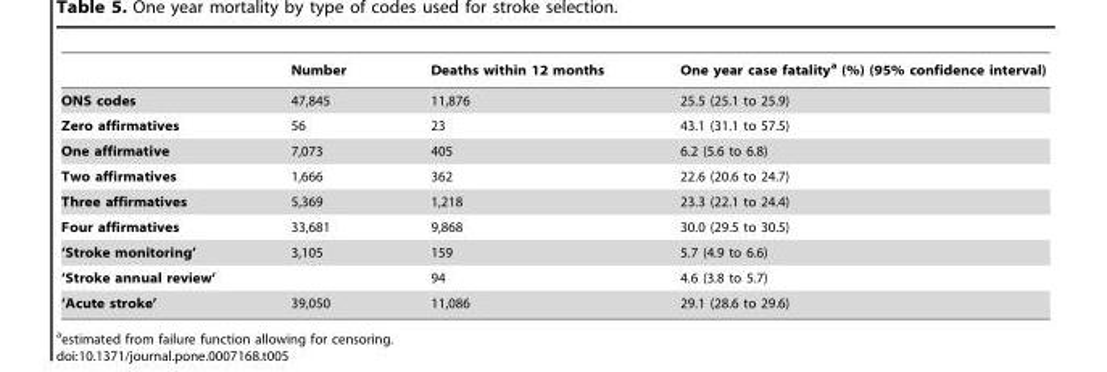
<table><thead><tr><td></td><td>Number</td><td>Deaths within 12 months</td><td>One year case fatality<sup>a</sup> (%) (95% confidence interval)</td></tr></thead><tbody><tr><td>ONS codes</td><td>47,845</td><td>11,876</td><td>25.5 (25.1 to 25.9)</td></tr><tr><td>Zero affirmatives</td><td>56</td><td>23</td><td>43.1 (31.1 to 57.5)</td></tr><tr><td>One affirmative</td><td>7,073</td><td>405</td><td>6.2 (5.6 to 6.8)</td></tr><tr><td>Two affirmatives</td><td>1,666</td><td>362</td><td>22.6 (20.6 to 24.7)</td></tr><tr><td>Three affirmatives</td><td>5,369</td><td>1,218</td><td>23.3 (22.1 to 24.4)</td></tr><tr><td>Four affirmatives</td><td>33,681</td><td>9,868</td><td>30.0 (29.5 to 30.5)</td></tr><tr><td>‘Stroke monitoring’</td><td>3,105</td><td>159</td><td>5.7 (4.9 to 6.6)</td></tr><tr><td>‘Stroke annual review’</td><td></td><td>94</td><td>4.6 (3.8 to 5.7)</td></tr><tr><td>‘Acute stroke’</td><td>39,050</td><td>11,086</td><td>29.1 (28.6 to 29.6)</td></tr></tbody></table>